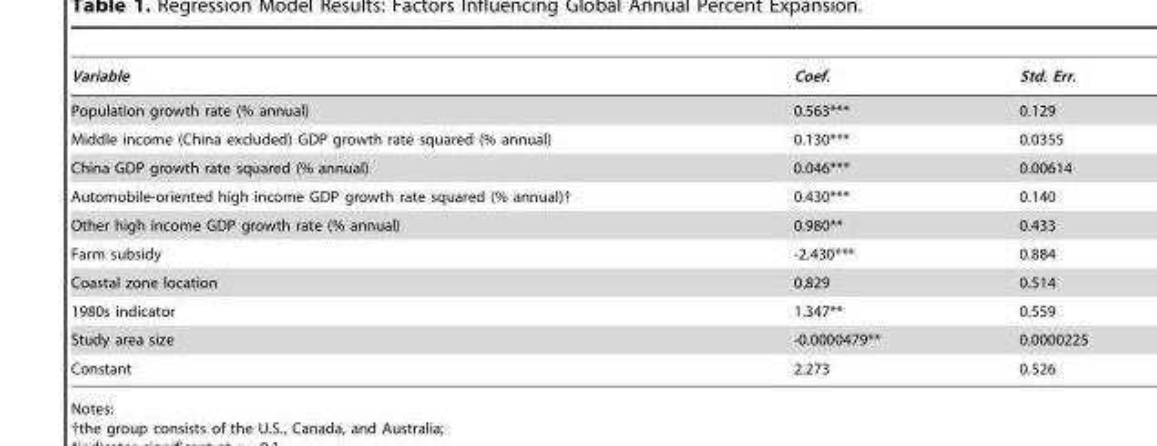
<table><thead><tr><td>Variable</td><td>Coef.</td><td>Std. Err.</td></tr></thead><tbody><tr><td>Population growth rate (% annual)</td><td>0.563***</td><td>0.129</td></tr><tr><td>Middle income (China excluded) GDP growth rate squared (% annual)</td><td>0.130***</td><td>0.0355</td></tr><tr><td>China GDP growth rate squared (% annual)</td><td>0.046***</td><td>0.00614</td></tr><tr><td>Automobile-oriented high income GDP growth rate squared (% annual)†</td><td>0.430***</td><td>0.140</td></tr><tr><td>Other high income GDP growth rate (% annual)</td><td>0.980**</td><td>0.433</td></tr><tr><td>Farm subsidy</td><td>-2.430***</td><td>0.884</td></tr><tr><td>Coastal zone location</td><td>0.829</td><td>0.514</td></tr><tr><td>1980s indicator</td><td>1.347**</td><td>0.559</td></tr><tr><td>Study area size</td><td>-0.0000479**</td><td>0.0000225</td></tr><tr><td>Constant</td><td>2.273</td><td>0.526</td></tr></tbody></table>